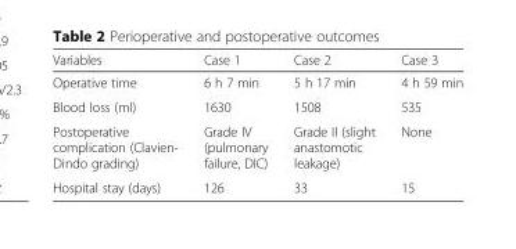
<table><thead><tr><td>Variables</td><td>Case 1</td><td>Case 2</td><td>Case 3</td></tr></thead><tbody><tr><td>Operative time</td><td>6 h 7 min</td><td>5 h 17 min</td><td>4 h 59 min</td></tr><tr><td>Blood loss (ml)</td><td>1630</td><td>1508</td><td>535</td></tr><tr><td>Postoperative complication (Clavien- Dindo grading)</td><td>Grade IV (pulmonary failure, DIC)</td><td>Grade II (slight anastomotic leakage)</td><td>None</td></tr><tr><td>Hospital stay (days)</td><td>126</td><td>33</td><td>15</td></tr></tbody></table>